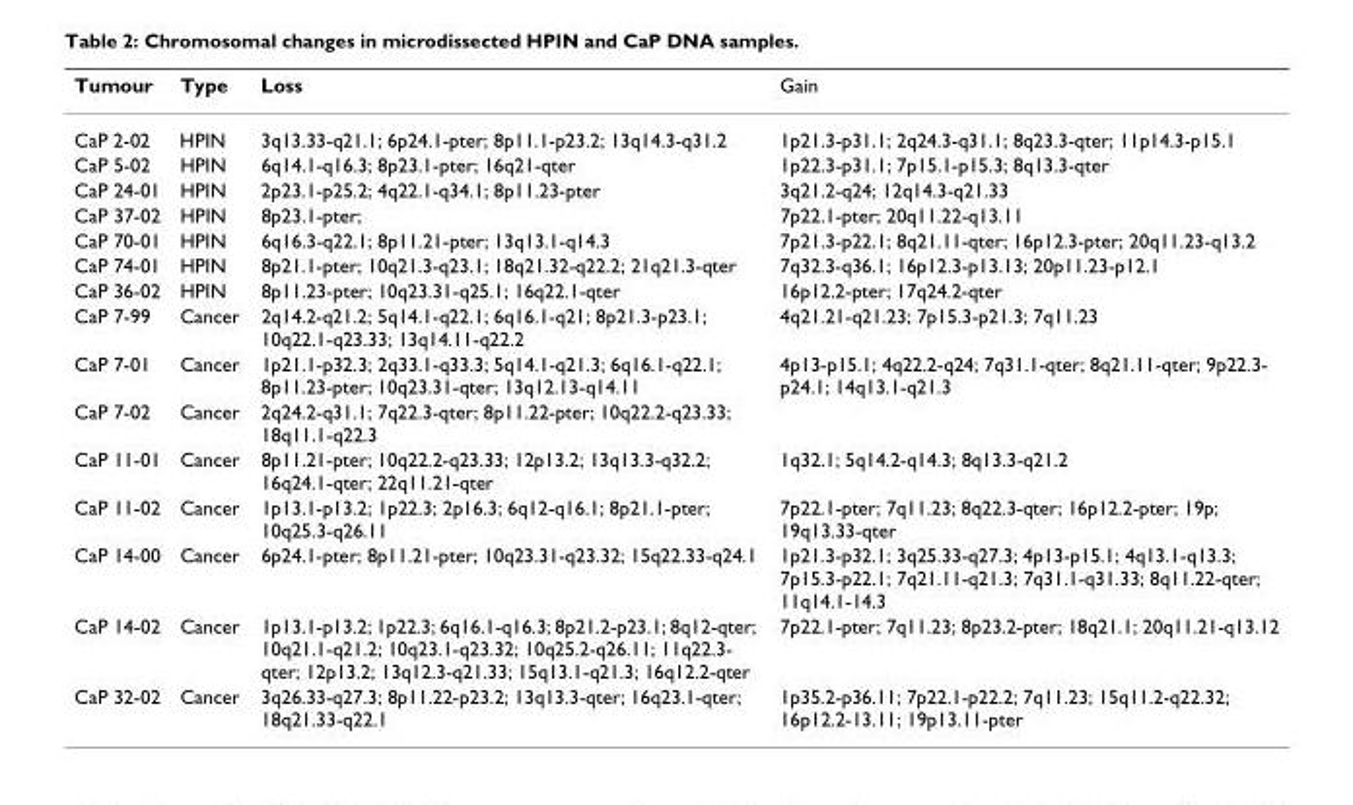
<table><thead><tr><td>Tumour</td><td>Type</td><td>Loss</td><td>Gain</td></tr></thead><tbody><tr><td>CaP 2-02</td><td>HPIN</td><td>3q13.33-q21.1; 6p24.1-pter; 8p11.1-p23.2; 13q14.3-q31.2</td><td>1p21.3-p31.1; 2q24.3-q31.1; 8q23.3-qter; 11p14.3-p15.1</td></tr><tr><td>CaP 5-02</td><td>HPIN</td><td>6q14.1-q16.3; 8p23.1-pter; 16q21-qter</td><td>1p22.3-p31.1; 7p15.1-p15.3; 8q13.3-qter</td></tr><tr><td>CaP 24-01</td><td>HPIN</td><td>2p23.1-p25.2; 4q22.1-q34.1; 8p11.23-pter</td><td>3q21.2-q24; 12q14.3-q21.33</td></tr><tr><td>CaP 37-02</td><td>HPIN</td><td>8p23.1-pter;</td><td>7p22.1-pter; 20q11.22-q13.11</td></tr><tr><td>CaP 70-01</td><td>HPIN</td><td>6q16.3-q22.1; 8p11.21-pter; 13q13.1-q14.3</td><td>7p21.3-p22.1; 8q21.11-qter; 16p12.3-pter; 20q11.23-q13.2</td></tr><tr><td>CaP 74-01</td><td>HPIN</td><td>8p21.1-pter; 10q21.3-q23.1; 18q21.32-q22.2; 21q21.3-qter</td><td>7q32.3-q36.1; 16p12.3-p13.13; 20p11.23-p12.1</td></tr><tr><td>CaP 36-02</td><td>HPIN</td><td>8p11.23-pter; 10q23.31-q25.1; 16q22.1-qter</td><td>16p12.2-pter; 17q24.2-qter</td></tr><tr><td>CaP 7-99</td><td>Cancer</td><td>2q14.2-q21.2; 5q14.1-q22.1; 6q16.1-q21; 8p21.3-p23.1; 10q22.1-q23.33; 13q14.11-q22.2</td><td>4q21.21-q21.23; 7p15.3-p21.3; 7q11.23</td></tr><tr><td>CaP 7-01</td><td>Cancer</td><td>1p21.1-p32.3; 2q33.1-q33.3; 5q14.1-q21.3; 6q16.1-q22.1; 8p11.23-pter; 10q23.31-qter; 13q12.13-q14.11</td><td>4p13-p15.1; 4q22.2-q24; 7q31.1-qter; 8q21.11-qter; 9p22.3- p24.1; 14q13.1-q21.3</td></tr><tr><td>CaP 7-02</td><td>Cancer</td><td>2q24.2-q31.1; 7q22.3-qter; 8p11.22-pter; 10q22.2-q23.33; 18q11.1-q22.3</td><td></td></tr><tr><td>CaP 11-01</td><td>Cancer</td><td>8p11.21-pter; 10q22.2-q23.33; 12p13.2; 13q13.3-q32.2; 16q24.1-qter; 22q11.21-qter</td><td>1q32.1; 5q14.2-q14.3; 8q13.3-q21.2</td></tr><tr><td>CaP 11-02</td><td>Cancer</td><td>1p13.1-p13.2; 1p22.3; 2p16.3; 6q12-q16.1; 8p21.1-pter; 10q25.3-q26.11</td><td>7p22.1-pter; 7q11.23; 8q22.3-qter; 16p12.2-pter; 19p; 19q13.33-qter</td></tr><tr><td>CaP 14-00</td><td>Cancer</td><td>6p24.1-pter; 8p11.21-pter; 10q23.31-q23.32; 15q22.33-q24.1</td><td>1p21.3-p32.1; 3q25.33-q27.3; 4p13-p15.1; 4q13.1-q13.3; 7p15.3-p22.1; 7q21.11-q21.3; 7q31.1-q31.33; 8q11.22-qter; 11q14.1-14.3</td></tr><tr><td>CaP 14-02</td><td>Cancer</td><td>1p13.1-p13.2; 1p22.3; 6q16.1-q16.3; 8p21.2-p23.1; 8q12-qter; 10q21.1-q21.2; 10q23.1-q23.32; 10q25.2-q26.11; 11q22.3- qter; 12p13.2; 13q12.3-q21.33; 15q13.1-q21.3; 16q12.2-qter</td><td>7p22.1-pter; 7q11.23; 8p23.2-pter; 18q21.1; 20q11.21-q13.12</td></tr><tr><td>CaP 32-02</td><td>Cancer</td><td>3q26.33-q27.3; 8p11.22-p23.2; 13q13.3-qter; 16q23.1-qter; 18q21.33-q22.1</td><td>1p35.2-p36.11; 7p22.1-p22.2; 7q11.23; 15q11.2-q22.32; 16p12.2-13.11; 19p13.11-pter</td></tr></tbody></table>